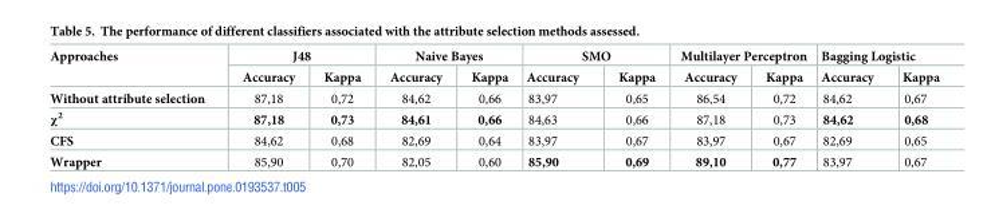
<table><thead><tr><td rowspan="2">Approaches</td><td colspan="2">J48</td><td colspan="2">Naive Bayes</td><td colspan="2">SMO</td><td colspan="2">Multilayer Perceptron</td><td colspan="2">Bagging Logistic</td></tr><tr><td>Accuracy</td><td>Kappa</td><td>Accuracy</td><td>Kappa</td><td>Accuracy</td><td>Kappa</td><td>Accuracy</td><td>Kappa</td><td>Accuracy</td><td>Kappa</td></tr></thead><tbody><tr><td>Without attribute selection</td><td>87,18</td><td>0,72</td><td>84,62</td><td>0,66</td><td>83,97</td><td>0,65</td><td>86,54</td><td>0,72</td><td>84,62</td><td>0,67</td></tr><tr><td>χ<sup>2</sup></td><td>87,18</td><td>0,73</td><td>84,61</td><td>0,66</td><td>84,63</td><td>0,66</td><td>87,18</td><td>0,73</td><td>84,62</td><td>0,68</td></tr><tr><td>CFS</td><td>84,62</td><td>0,68</td><td>82,69</td><td>0,64</td><td>83,97</td><td>0,67</td><td>83,97</td><td>0,67</td><td>82,69</td><td>0,65</td></tr><tr><td>Wrapper</td><td>85,90</td><td>0,70</td><td>82,05</td><td>0,60</td><td>85,90</td><td>0,69</td><td>89,10</td><td>0,77</td><td>83,97</td><td>0,67</td></tr></tbody></table>